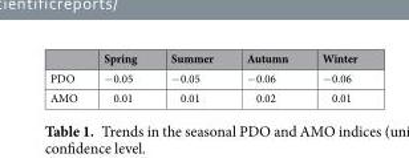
<table><thead><tr><td></td><td>Spring</td><td>Summer</td><td>Autumn</td><td>Winter</td></tr></thead><tbody><tr><td>PDO</td><td>−0.05</td><td>−0.05</td><td>−0.06</td><td>−0.06</td></tr><tr><td>AMO</td><td>0.01</td><td>0.01</td><td>0.02</td><td>0.01</td></tr></tbody></table>